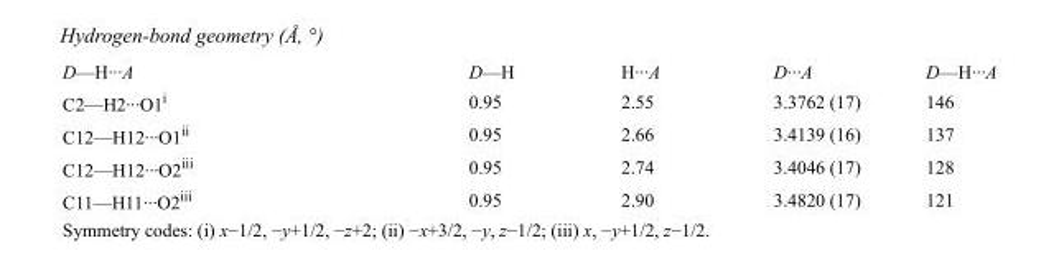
<table><tbody><tr><td>D—H···A</td><td>D—H</td><td>H···A</td><td>D···A</td><td>D—H···A</td></tr><tr><td>C2—H2···O1<sup>i</sup></td><td>0.95</td><td>2.55</td><td>3.3762 (17)</td><td>146</td></tr><tr><td>C12—H12···O1<sup>ii</sup></td><td>0.95</td><td>2.66</td><td>3.4139 (16)</td><td>137</td></tr><tr><td>C12—H12···O2<sup>iii</sup></td><td>0.95</td><td>2.74</td><td>3.4046 (17)</td><td>128</td></tr><tr><td>C11—H11···O2<sup>iii</sup></td><td>0.95</td><td>2.90</td><td>3.4820 (17)</td><td>121</td></tr></tbody></table>